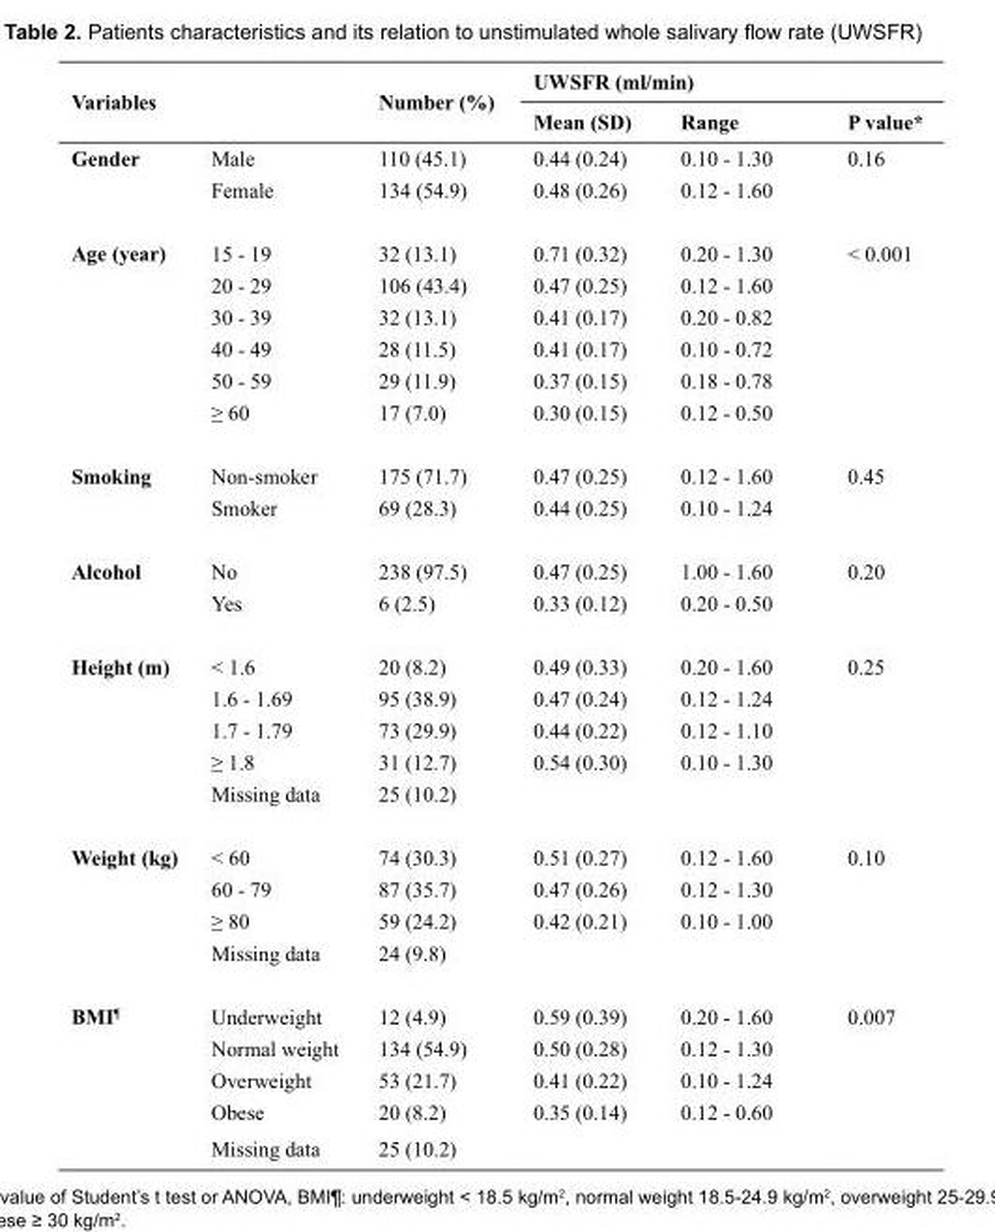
<table><thead><tr><td rowspan="2">Variables</td><td rowspan="2"></td><td rowspan="2">Number (%)</td><td colspan="3">UWSFR (ml/min)</td></tr><tr><td>Mean (SD)</td><td>Range</td><td>P value*</td></tr></thead><tbody><tr><td rowspan="2">Gender</td><td>Male</td><td>110 (45.1)</td><td>0.44 (0.24)</td><td>0.10 - 1.30</td><td>0.16</td></tr><tr><td>Female</td><td>134 (54.9)</td><td>0.48 (0.26)</td><td>0.12 - 1.60</td><td></td></tr><tr><td rowspan="6">Age (year)</td><td>15 - 19</td><td>32 (13.1)</td><td>0.71 (0.32)</td><td>0.20 - 1.30</td><td>&lt; 0.001</td></tr><tr><td>20 - 29</td><td>106 (43.4)</td><td>0.47 (0.25)</td><td>0.12 - 1.60</td><td></td></tr><tr><td>30 - 39</td><td>32 (13.1)</td><td>0.41 (0.17)</td><td>0.20 - 0.82</td><td></td></tr><tr><td>40 - 49</td><td>28 (11.5)</td><td>0.41 (0.17)</td><td>0.10 - 0.72</td><td></td></tr><tr><td>50 - 59</td><td>29 (11.9)</td><td>0.37 (0.15)</td><td>0.18 - 0.78</td><td></td></tr><tr><td>≥ 60</td><td>17 (7.0)</td><td>0.30 (0.15)</td><td>0.12 - 0.50</td><td></td></tr><tr><td rowspan="2">Smoking</td><td>Non-smoker</td><td>175 (71.7)</td><td>0.47 (0.25)</td><td>0.12 - 1.60</td><td>0.45</td></tr><tr><td>Smoker</td><td>69 (28.3)</td><td>0.44 (0.25)</td><td>0.10 - 1.24</td><td></td></tr><tr><td rowspan="2">Alcohol</td><td>No</td><td>238 (97.5)</td><td>0.47 (0.25)</td><td>1.00 - 1.60</td><td>0.20</td></tr><tr><td>Yes</td><td>6 (2.5)</td><td>0.33 (0.12)</td><td>0.20 - 0.50</td><td></td></tr><tr><td rowspan="5">Height (m)</td><td>&lt; 1.6</td><td>20 (8.2)</td><td>0.49 (0.33)</td><td>0.20 - 1.60</td><td>0.25</td></tr><tr><td>1.6 - 1.69</td><td>95 (38.9)</td><td>0.47 (0.24)</td><td>0.12 - 1.24</td><td></td></tr><tr><td>1.7 - 1.79</td><td>73 (29.9)</td><td>0.44 (0.22)</td><td>0.12 - 1.10</td><td></td></tr><tr><td>≥ 1.8</td><td>31 (12.7)</td><td>0.54 (0.30)</td><td>0.10 - 1.30</td><td></td></tr><tr><td>Missing data</td><td>25 (10.2)</td><td></td><td></td><td></td></tr><tr><td rowspan="4">Weight (kg)</td><td>&lt; 60</td><td>74 (30.3)</td><td>0.51 (0.27)</td><td>0.12 - 1.60</td><td>0.10</td></tr><tr><td>60 - 79</td><td>87 (35.7)</td><td>0.47 (0.26)</td><td>0.12 - 1.30</td><td></td></tr><tr><td>≥ 80</td><td>59 (24.2)</td><td>0.42 (0.21)</td><td>0.10 - 1.00</td><td></td></tr><tr><td>Missing data</td><td>24 (9.8)</td><td></td><td></td><td></td></tr><tr><td rowspan="5">BMI¶</td><td>Underweight</td><td>12 (4.9)</td><td>0.59 (0.39)</td><td>0.20 - 1.60</td><td>0.007</td></tr><tr><td>Normal weight</td><td>134 (54.9)</td><td>0.50 (0.28)</td><td>0.12 - 1.30</td><td></td></tr><tr><td>Overweight</td><td>53 (21.7)</td><td>0.41 (0.22)</td><td>0.10 - 1.24</td><td></td></tr><tr><td>Obese</td><td>20 (8.2)</td><td>0.35 (0.14)</td><td>0.12 - 0.60</td><td></td></tr><tr><td>Missing data</td><td>25 (10.2)</td><td></td><td></td><td></td></tr></tbody></table>